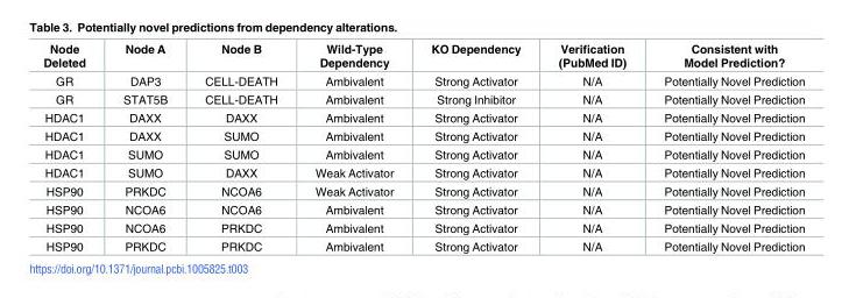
<table><thead><tr><td>Node Deleted</td><td>Node A</td><td>Node B</td><td>Wild-Type Dependency</td><td>KO Dependency</td><td>Verification (PubMed ID)</td><td>Consistent with Model Prediction?</td></tr></thead><tbody><tr><td>GR</td><td>DAP3</td><td>CELL-DEATH</td><td>Ambivalent</td><td>Strong Activator</td><td>N/A</td><td>Potentially Novel Prediction</td></tr><tr><td>GR</td><td>STAT5B</td><td>CELL-DEATH</td><td>Ambivalent</td><td>Strong Inhibitor</td><td>N/A</td><td>Potentially Novel Prediction</td></tr><tr><td>HDAC1</td><td>DAXX</td><td>DAXX</td><td>Ambivalent</td><td>Strong Activator</td><td>N/A</td><td>Potentially Novel Prediction</td></tr><tr><td>HDAC1</td><td>DAXX</td><td>SUMO</td><td>Ambivalent</td><td>Strong Activator</td><td>N/A</td><td>Potentially Novel Prediction</td></tr><tr><td>HDAC1</td><td>SUMO</td><td>SUMO</td><td>Ambivalent</td><td>Strong Activator</td><td>N/A</td><td>Potentially Novel Prediction</td></tr><tr><td>HDAC1</td><td>SUMO</td><td>DAXX</td><td>Weak Activator</td><td>Strong Activator</td><td>N/A</td><td>Potentially Novel Prediction</td></tr><tr><td>HSP90</td><td>PRKDC</td><td>NCOA6</td><td>Weak Activator</td><td>Strong Activator</td><td>N/A</td><td>Potentially Novel Prediction</td></tr><tr><td>HSP90</td><td>NCOA6</td><td>NCOA6</td><td>Ambivalent</td><td>Strong Activator</td><td>N/A</td><td>Potentially Novel Prediction</td></tr><tr><td>HSP90</td><td>NCOA6</td><td>PRKDC</td><td>Ambivalent</td><td>Strong Activator</td><td>N/A</td><td>Potentially Novel Prediction</td></tr><tr><td>HSP90</td><td>PRKDC</td><td>PRKDC</td><td>Ambivalent</td><td>Strong Activator</td><td>N/A</td><td>Potentially Novel Prediction</td></tr></tbody></table>